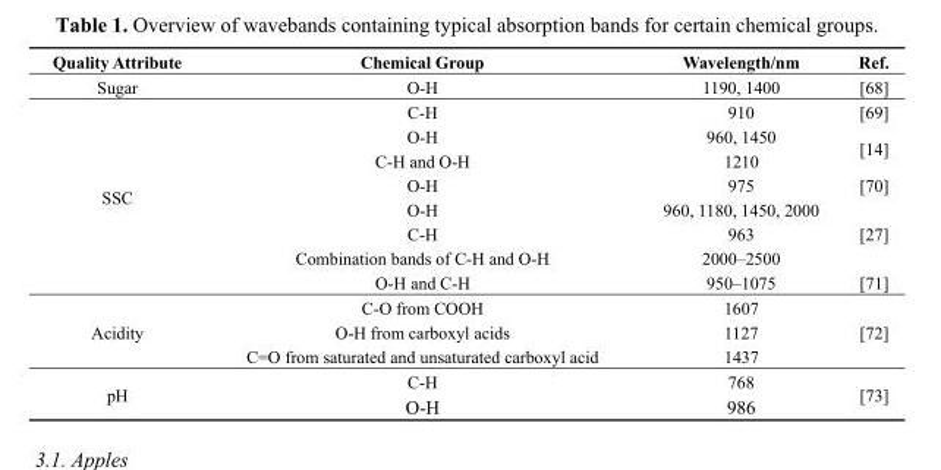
<table><thead><tr><td>Quality Attribute</td><td>Chemical Group</td><td>Wavelength/nm</td><td>Ref.</td></tr></thead><tbody><tr><td>Sugar</td><td>O-H</td><td>1190, 1400</td><td>[68]</td></tr><tr><td rowspan="8">SSC</td><td>C-H</td><td>910</td><td>[69]</td></tr><tr><td>O-H</td><td>960, 1450</td><td rowspan="2">[14]</td></tr><tr><td>C-H and O-H</td><td>1210</td></tr><tr><td>O-H</td><td>975</td><td>[70]</td></tr><tr><td>O-H</td><td>960, 1180, 1450, 2000</td><td rowspan="3">[27]</td></tr><tr><td>C-H</td><td>963</td></tr><tr><td>Combination bands of C-H and O-H</td><td>2000–2500</td></tr><tr><td>O-H and C-H</td><td>950–1075</td><td>[71]</td></tr><tr><td rowspan="3">Acidity</td><td>C-O from COOH</td><td>1607</td><td rowspan="3">[72]</td></tr><tr><td>O-H from carboxyl acids</td><td>1127</td></tr><tr><td>C=O from saturated and unsaturated carboxyl acid</td><td>1437</td></tr><tr><td rowspan="2">pH</td><td>C-H</td><td>768</td><td rowspan="2">[73]</td></tr><tr><td>O-H</td><td>986</td></tr></tbody></table>